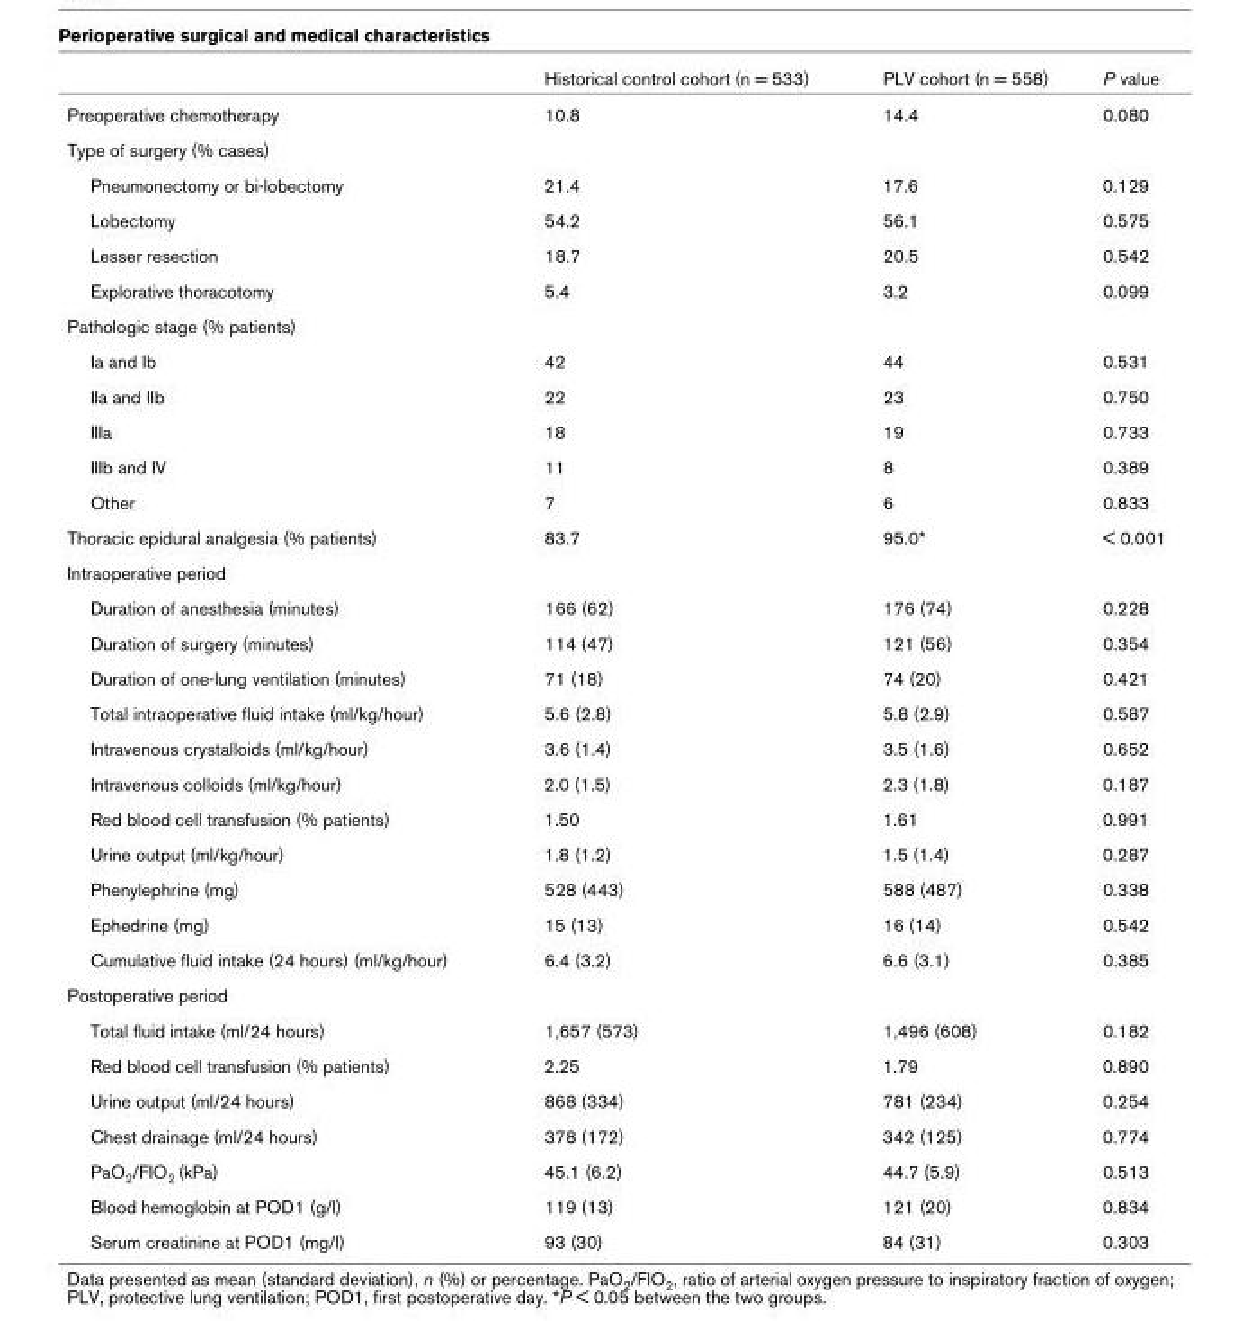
<table><thead><tr><td></td><td>Historical control cohort (n = 533)</td><td>PLV cohort (n = 558)</td><td>P value</td></tr></thead><tbody><tr><td>Preoperative chemotherapy</td><td>10.8</td><td>14.4</td><td>0.080</td></tr><tr><td colspan="4">Type of surgery (% cases)</td></tr><tr><td>Pneumonectomy or bi-lobectomy</td><td>21.4</td><td>17.6</td><td>0.129</td></tr><tr><td>Lobectomy</td><td>54.2</td><td>56.1</td><td>0.575</td></tr><tr><td>Lesser resection</td><td>18.7</td><td>20.5</td><td>0.542</td></tr><tr><td>Explorative thoracotomy</td><td>5.4</td><td>3.2</td><td>0.099</td></tr><tr><td colspan="4">Pathologic stage (% patients)</td></tr><tr><td>Ia and Ib</td><td>42</td><td>44</td><td>0.531</td></tr><tr><td>IIa and IIb</td><td>22</td><td>23</td><td>0.750</td></tr><tr><td>IIIa</td><td>18</td><td>19</td><td>0.733</td></tr><tr><td>IIIb and IV</td><td>11</td><td>8</td><td>0.389</td></tr><tr><td>Other</td><td>7</td><td>6</td><td>0.833</td></tr><tr><td>Thoracic epidural analgesia (% patients)</td><td>83.7</td><td>95.0*</td><td>&lt; 0.001</td></tr><tr><td colspan="4">Intraoperative period</td></tr><tr><td>Duration of anesthesia (minutes)</td><td>166 (62)</td><td>176 (74)</td><td>0.228</td></tr><tr><td>Duration of surgery (minutes)</td><td>114 (47)</td><td>121 (56)</td><td>0.354</td></tr><tr><td>Duration of one-lung ventilation (minutes)</td><td>71 (18)</td><td>74 (20)</td><td>0.421</td></tr><tr><td>Total intraoperative fluid intake (ml/kg/hour)</td><td>5.6 (2.8)</td><td>5.8 (2.9)</td><td>0.587</td></tr><tr><td>Intravenous crystalloids (ml/kg/hour)</td><td>3.6 (1.4)</td><td>3.5 (1.6)</td><td>0.652</td></tr><tr><td>Intravenous colloids (ml/kg/hour)</td><td>2.0 (1.5)</td><td>2.3 (1.8)</td><td>0.187</td></tr><tr><td>Red blood cell transfusion (% patients)</td><td>1.50</td><td>1.61</td><td>0.991</td></tr><tr><td>Urine output (ml/kg/hour)</td><td>1.8 (1.2)</td><td>1.5 (1.4)</td><td>0.287</td></tr><tr><td>Phenylephrine (mg)</td><td>528 (443)</td><td>588 (487)</td><td>0.338</td></tr><tr><td>Ephedrine (mg)</td><td>15 (13)</td><td>16 (14)</td><td>0.542</td></tr><tr><td>Cumulative fluid intake (24 hours) (ml/kg/hour)</td><td>6.4 (3.2)</td><td>6.6 (3.1)</td><td>0.385</td></tr><tr><td colspan="4">Postoperative period</td></tr><tr><td>Total fluid intake (ml/24 hours)</td><td>1,657 (573)</td><td>1,496 (608)</td><td>0.182</td></tr><tr><td>Red blood cell transfusion (% patients)</td><td>2.25</td><td>1.79</td><td>0.890</td></tr><tr><td>Urine output (ml/24 hours)</td><td>868 (334)</td><td>781 (234)</td><td>0.254</td></tr><tr><td>Chest drainage (ml/24 hours)</td><td>378 (172)</td><td>342 (125)</td><td>0.774</td></tr><tr><td>PaO<sub>2</sub>/FIO<sub>2</sub> (kPa)</td><td>45.1 (6.2)</td><td>44.7 (5.9)</td><td>0.513</td></tr><tr><td>Blood hemoglobin at POD1 (g/l)</td><td>119 (13)</td><td>121 (20)</td><td>0.834</td></tr><tr><td>Serum creatinine at POD1 (mg/l)</td><td>93 (30)</td><td>84 (31)</td><td>0.303</td></tr></tbody></table>